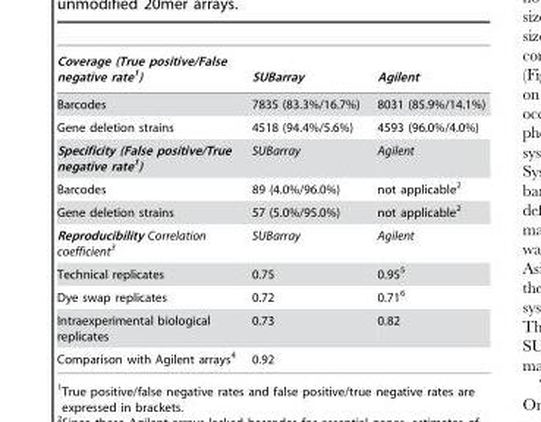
<table><thead><tr><td>Coverage (True positive/False negative rate1)</td><td>SUBarray</td><td>Agilent</td></tr></thead><tbody><tr><td>Barcodes</td><td>7835 (83.3%/16.7%)</td><td>8031 (85.9%/14.1%)</td></tr><tr><td>Gene deletion strains</td><td>4518 (94.4%/5.6%)</td><td>4593 (96.0%/4.0%)</td></tr><tr><td>Specificity (False positive/True negative rate1)</td><td>SUBarray</td><td>Agilent</td></tr><tr><td>Barcodes</td><td>89 (4.0%/96.0%)</td><td>not applicable<sup>2</sup></td></tr><tr><td>Gene deletion strains</td><td>57 (5.0%/95.0%)</td><td>not applicable<sup>2</sup></td></tr><tr><td>Reproducibility Correlation coefficient3</td><td>SUBarray</td><td>Agilent</td></tr><tr><td>Technical replicates</td><td>0.75</td><td>0.95<sup>5</sup></td></tr><tr><td>Dye swap replicates</td><td>0.72</td><td>0.71<sup>6</sup></td></tr><tr><td>Intraexperimental biological replicates</td><td>0.73</td><td>0.82</td></tr><tr><td>Comparison with Agilent arrays<sup>4</sup></td><td colspan="2">0.92</td></tr></tbody></table>